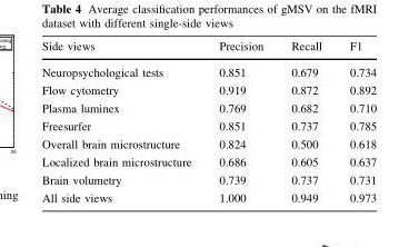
<table><thead><tr><td>Side views</td><td>Precision</td><td>Recall</td><td>F1</td></tr></thead><tbody><tr><td>Neuropsychological tests</td><td>0.851</td><td>0.679</td><td>0.734</td></tr><tr><td>Flow cytometry</td><td>0.919</td><td>0.872</td><td>0.892</td></tr><tr><td>Plasma luminex</td><td>0.769</td><td>0.682</td><td>0.710</td></tr><tr><td>Freesurfer</td><td>0.851</td><td>0.737</td><td>0.785</td></tr><tr><td>Overall brain microstructure</td><td>0.824</td><td>0.500</td><td>0.618</td></tr><tr><td>Localized brain microstructure</td><td>0.686</td><td>0.605</td><td>0.637</td></tr><tr><td>Brain volumetry</td><td>0.739</td><td>0.737</td><td>0.731</td></tr><tr><td>All side views</td><td>1.000</td><td>0.949</td><td>0.973</td></tr></tbody></table>